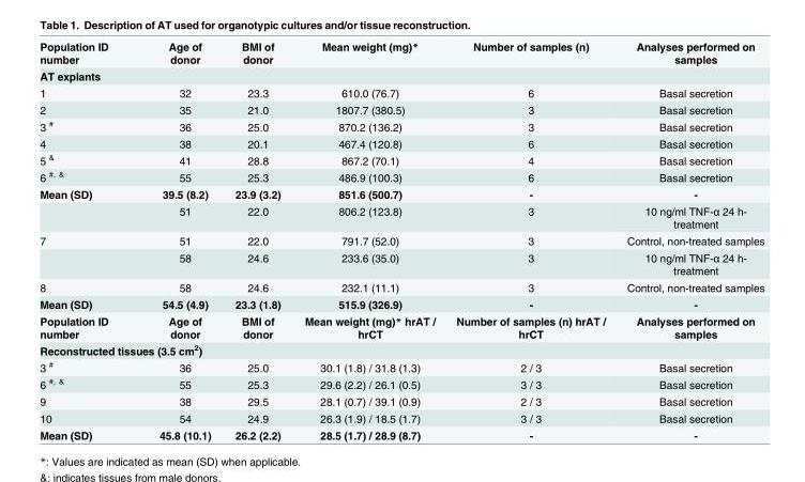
<table><tbody><tr><td>Population ID number</td><td>Age of donor</td><td>BMI of donor</td><td>Mean weight (mg)*</td><td>Number of samples (n)</td><td>Analyses performed on samples</td></tr><tr><td colspan="6">AT explants</td></tr><tr><td>1</td><td>32</td><td>23.3</td><td>610.0 (76.7)</td><td>6</td><td>Basal secretion</td></tr><tr><td>2</td><td>35</td><td>21.0</td><td>1807.7 (380.5)</td><td>3</td><td>Basal secretion</td></tr><tr><td>3 <sup>#</sup></td><td>36</td><td>25.0</td><td>870.2 (136.2)</td><td>3</td><td>Basal secretion</td></tr><tr><td>4</td><td>38</td><td>20.1</td><td>467.4 (120.8)</td><td>6</td><td>Basal secretion</td></tr><tr><td>5 <sup>&amp;</sup></td><td>41</td><td>28.8</td><td>867.2 (70.1)</td><td>4</td><td>Basal secretion</td></tr><tr><td>6 <sup>#, &amp;</sup></td><td>55</td><td>25.3</td><td>486.9 (100.3)</td><td>6</td><td>Basal secretion</td></tr><tr><td rowspan="2">Mean (SD)</td><td>39.5 (8.2)</td><td>23.9 (3.2)</td><td>851.6 (500.7)</td><td>-</td><td>-</td></tr><tr><td>51</td><td>22.0</td><td>806.2 (123.8)</td><td>3</td><td>10 ng/ml TNF-α 24 h- treatment</td></tr><tr><td rowspan="2">7</td><td>51</td><td>22.0</td><td>791.7 (52.0)</td><td>3</td><td>Control, non-treated samples</td></tr><tr><td>58</td><td>24.6</td><td>233.6 (35.0)</td><td>3</td><td>10 ng/ml TNF-α 24 h- treatment</td></tr><tr><td>8</td><td>58</td><td>24.6</td><td>232.1 (11.1)</td><td>3</td><td>Control, non-treated samples</td></tr><tr><td>Mean (SD)</td><td>54.5 (4.9)</td><td>23.3 (1.8)</td><td>515.9 (326.9)</td><td>-</td><td>-</td></tr><tr><td>Population ID number</td><td>Age of donor</td><td>BMI of donor</td><td>Mean weight (mg)* hrAT / hrCT</td><td>Number of samples (n) hrAT / hrCT</td><td>Analyses performed on samples</td></tr><tr><td colspan="6">Reconstructed tissues (3.5 cm<sup>2</sup>)</td></tr><tr><td>3 <sup>#</sup></td><td>36</td><td>25.0</td><td>30.1 (1.8) / 31.8 (1.3)</td><td>2 / 3</td><td>Basal secretion</td></tr><tr><td>6 <sup>#, &amp;</sup></td><td>55</td><td>25.3</td><td>29.6 (2.2) / 26.1 (0.5)</td><td>3 / 3</td><td>Basal secretion</td></tr><tr><td>9</td><td>38</td><td>29.5</td><td>28.1 (0.7) / 39.1 (0.9)</td><td>2 / 3</td><td>Basal secretion</td></tr><tr><td>10</td><td>54</td><td>24.9</td><td>26.3 (1.9) / 18.5 (1.7)</td><td>3 / 3</td><td>Basal secretion</td></tr><tr><td>Mean (SD)</td><td>45.8 (10.1)</td><td>26.2 (2.2)</td><td>28.5 (1.7) / 28.9 (8.7)</td><td>-</td><td>-</td></tr></tbody></table>